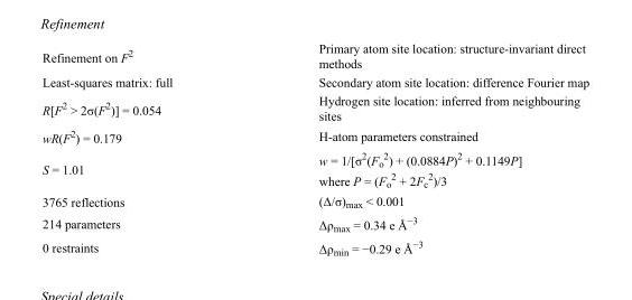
<table><tbody><tr><td>Refinement on F<sup>2</sup></td><td>Primary atom site location: structure-invariant direct methods</td></tr><tr><td>Least-squares matrix: full</td><td>Secondary atom site location: difference Fourier map</td></tr><tr><td>R[F<sup>2</sup> &gt; 2σ(F<sup>2</sup>)] = 0.054</td><td>Hydrogen site location: inferred from neighbouring sites</td></tr><tr><td>wR(F<sup>2</sup>) = 0.179</td><td>H-atom parameters constrained</td></tr><tr><td>S = 1.01</td><td>w = 1/[σ<sup>2</sup>(F<sub>o</sub> <sup>2</sup>) + (0.0884P)<sup>2</sup> + 0.1149P] where P = (F<sub>o</sub> <sup>2</sup> + 2F<sub>c</sub> <sup>2</sup>)/3</td></tr><tr><td>3765 reflections</td><td>(Δ/σ)<sub>max</sub> &lt; 0.001</td></tr><tr><td>214 parameters</td><td>Δρ<sub>max</sub> = 0.34 e Å<sup>−3</sup></td></tr><tr><td>0 restraints</td><td>Δρ<sub>min</sub> = −0.29 e Å<sup>−3</sup></td></tr></tbody></table>